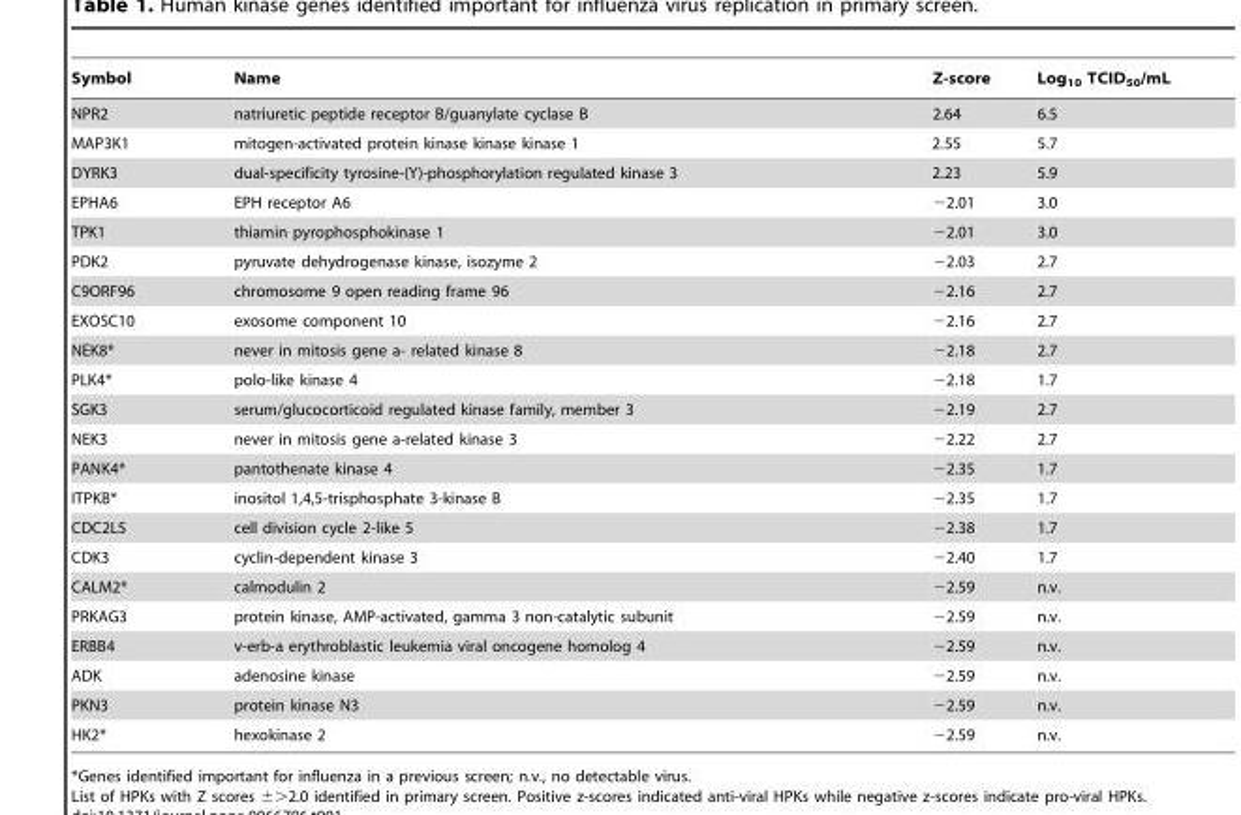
<table><thead><tr><td>Symbol</td><td>Name</td><td>Z-score</td><td>Log<sub>10</sub> TCID<sub>50</sub>/mL</td></tr></thead><tbody><tr><td>NPR2</td><td>natriuretic peptide receptor B/guanylate cyclase B</td><td>2.64</td><td>6.5</td></tr><tr><td>MAP3K1</td><td>mitogen-activated protein kinase kinase kinase 1</td><td>2.55</td><td>5.7</td></tr><tr><td>DYRK3</td><td>dual-specificity tyrosine-(Y)-phosphorylation regulated kinase 3</td><td>2.23</td><td>5.9</td></tr><tr><td>EPHA6</td><td>EPH receptor A6</td><td>−2.01</td><td>3.0</td></tr><tr><td>TPK1</td><td>thiamin pyrophosphokinase 1</td><td>−2.01</td><td>3.0</td></tr><tr><td>PDK2</td><td>pyruvate dehydrogenase kinase, isozyme 2</td><td>−2.03</td><td>2.7</td></tr><tr><td>C9ORF96</td><td>chromosome 9 open reading frame 96</td><td>−2.16</td><td>2.7</td></tr><tr><td>EXOSC10</td><td>exosome component 10</td><td>−2.16</td><td>2.7</td></tr><tr><td>NEK8*</td><td>never in mitosis gene a- related kinase 8</td><td>−2.18</td><td>2.7</td></tr><tr><td>PLK4*</td><td>polo-like kinase 4</td><td>−2.18</td><td>1.7</td></tr><tr><td>SGK3</td><td>serum/glucocorticoid regulated kinase family, member 3</td><td>−2.19</td><td>2.7</td></tr><tr><td>NEK3</td><td>never in mitosis gene a-related kinase 3</td><td>−2.22</td><td>2.7</td></tr><tr><td>PANK4*</td><td>pantothenate kinase 4</td><td>−2.35</td><td>1.7</td></tr><tr><td>ITPKB*</td><td>inositol 1,4,5-trisphosphate 3-kinase B</td><td>−2.35</td><td>1.7</td></tr><tr><td>CDC2L5</td><td>cell division cycle 2-like 5</td><td>−2.38</td><td>1.7</td></tr><tr><td>CDK3</td><td>cyclin-dependent kinase 3</td><td>−2.40</td><td>1.7</td></tr><tr><td>CALM2*</td><td>calmodulin 2</td><td>−2.59</td><td>n.v.</td></tr><tr><td>PRKAG3</td><td>protein kinase, AMP-activated, gamma 3 non-catalytic subunit</td><td>−2.59</td><td>n.v.</td></tr><tr><td>ERBB4</td><td>v-erb-a erythroblastic leukemia viral oncogene homolog 4</td><td>−2.59</td><td>n.v.</td></tr><tr><td>ADK</td><td>adenosine kinase</td><td>−2.59</td><td>n.v.</td></tr><tr><td>PKN3</td><td>protein kinase N3</td><td>−2.59</td><td>n.v.</td></tr><tr><td>HK2*</td><td>hexokinase 2</td><td>−2.59</td><td>n.v.</td></tr></tbody></table>